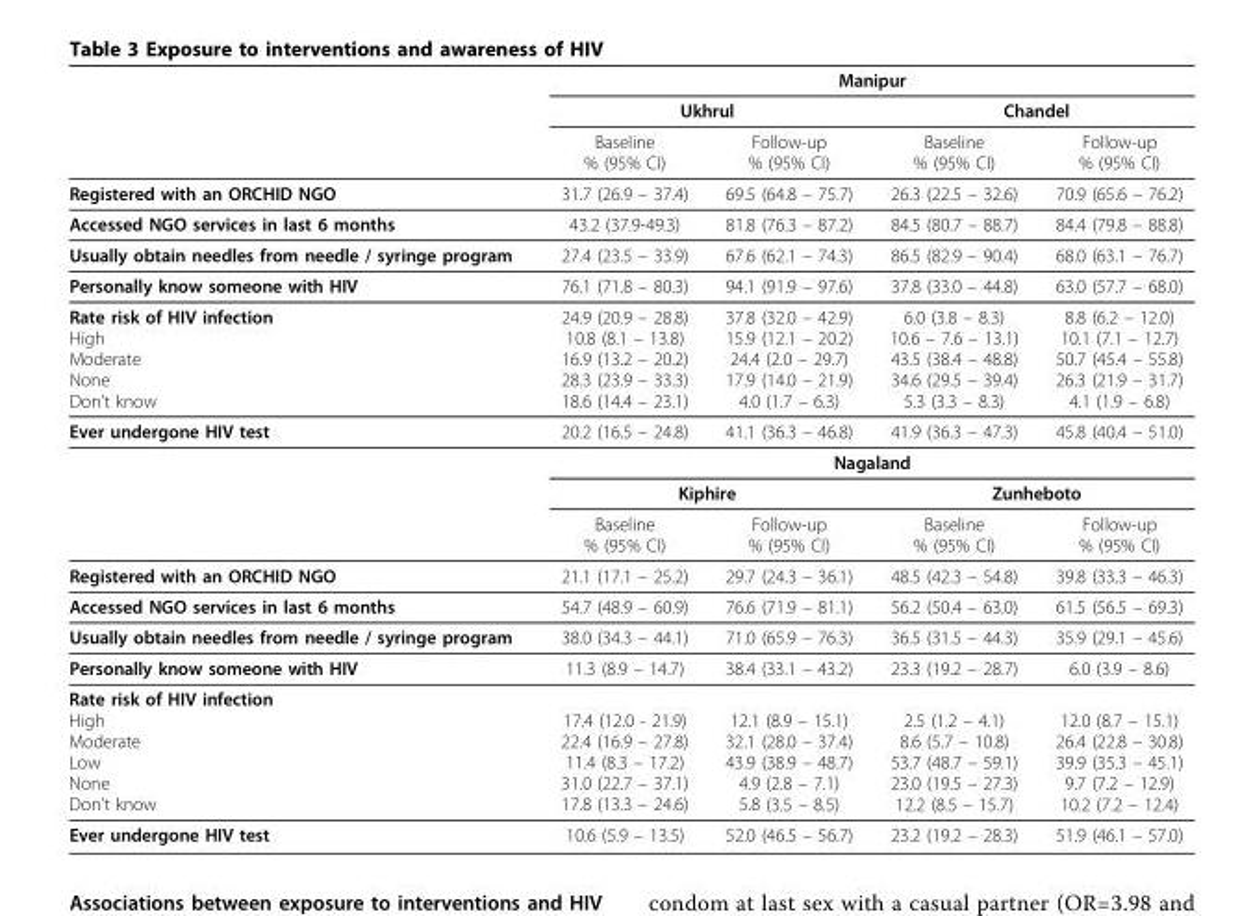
<table><thead><tr><td rowspan="3"></td><td colspan="4">Manipur</td></tr><tr><td colspan="2">Ukhrul</td><td colspan="2">Chandel</td></tr><tr><td>Baseline % (95% CI)</td><td>Follow-up % (95% CI)</td><td>Baseline % (95% CI)</td><td>Follow-up % (95% CI)</td></tr></thead><tbody><tr><td>Registered with an ORCHID NGO</td><td>31.7 (26.9 – 37.4)</td><td>69.5 (64.8 – 75.7)</td><td>26.3 (22.5 – 32.6)</td><td>70.9 (65.6 – 76.2)</td></tr><tr><td>Accessed NGO services in last 6 months</td><td>43.2 (37.9-49.3)</td><td>81.8 (76.3 – 87.2)</td><td>84.5 (80.7 – 88.7)</td><td>84.4 (79.8 – 88.8)</td></tr><tr><td>Usually obtain needles from needle / syringe program</td><td>27.4 (23.5 – 33.9)</td><td>67.6 (62.1 – 74.3)</td><td>86.5 (82.9 – 90.4)</td><td>68.0 (63.1 – 76.7)</td></tr><tr><td>Personally know someone with HIV</td><td>76.1 (71.8 – 80.3)</td><td>94.1 (91.9 – 97.6)</td><td>37.8 (33.0 – 44.8)</td><td>63.0 (57.7 – 68.0)</td></tr><tr><td>Rate risk of HIV infection High Moderate None Don’t know</td><td>24.9 (20.9 – 28.8) 10.8 (8.1 – 13.8) 16.9 (13.2 – 20.2) 28.3 (23.9 – 33.3) 18.6 (14.4 – 23.1)</td><td>37.8 (32.0 – 42.9) 15.9 (12.1 – 20.2) 24.4 (2.0 – 29.7) 17.9 (14.0 – 21.9) 4.0 (1.7 – 6.3)</td><td>6.0 (3.8 – 8.3) 10.6 – 7.6 – 13.1) 43.5 (38.4 – 48.8) 34.6 (29.5 – 39.4) 5.3 (3.3 – 8.3)</td><td>8.8 (6.2 – 12.0) 10.1 (7.1 – 12.7) 50.7 (45.4 – 55.8) 26.3 (21.9 – 31.7) 4.1 (1.9 – 6.8)</td></tr><tr><td rowspan="4">Ever undergone HIV test</td><td>20.2 (16.5 – 24.8)</td><td>41.1 (36.3 – 46.8)</td><td>41.9 (36.3 – 47.3)</td><td>45.8 (40.4 – 51.0)</td></tr><tr><td colspan="4">Nagaland</td></tr><tr><td colspan="2">Kiphire</td><td colspan="2">Zunheboto</td></tr><tr><td>Baseline % (95% CI)</td><td>Follow-up % (95% CI)</td><td>Baseline % (95% CI)</td><td>Follow-up % (95% CI)</td></tr><tr><td>Registered with an ORCHID NGO</td><td>21.1 (17.1 – 25.2)</td><td>29.7 (24.3 – 36.1)</td><td>48.5 (42.3 – 54.8)</td><td>39.8 (33.3 – 46.3)</td></tr><tr><td>Accessed NGO services in last 6 months</td><td>54.7 (48.9 – 60.9)</td><td>76.6 (71.9 – 81.1)</td><td>56.2 (50.4 – 63.0)</td><td>61.5 (56.5 – 69.3)</td></tr><tr><td>Usually obtain needles from needle / syringe program</td><td>38.0 (34.3 – 44.1)</td><td>71.0 (65.9 – 76.3)</td><td>36.5 (31.5 – 44.3)</td><td>35.9 (29.1 – 45.6)</td></tr><tr><td>Personally know someone with HIV</td><td>11.3 (8.9 – 14.7)</td><td>38.4 (33.1 – 43.2)</td><td>23.3 (19.2 – 28.7)</td><td>6.0 (3.9 – 8.6)</td></tr><tr><td>Rate risk of HIV infection High Moderate Low None Don’t know</td><td>17.4 (12.0 - 21.9) 22.4 (16.9 – 27.8) 11.4 (8.3 – 17.2) 31.0 (22.7 – 37.1) 17.8 (13.3 – 24.6)</td><td>12.1 (8.9 – 15.1) 32.1 (28.0 – 37.4) 43.9 (38.9 – 48.7) 4.9 (2.8 – 7.1) 5.8 (3.5 – 8.5)</td><td>2.5 (1.2 – 4.1) 8.6 (5.7 – 10.8) 53.7 (48.7 – 59.1) 23.0 (19.5 – 27.3) 12.2 (8.5 – 15.7)</td><td>12.0 (8.7 – 15.1) 26.4 (22.8 – 30.8) 39.9 (35.3 – 45.1) 9.7 (7.2 – 12.9) 10.2 (7.2 – 12.4)</td></tr><tr><td>Ever undergone HIV test</td><td>10.6 (5.9 – 13.5)</td><td>52.0 (46.5 – 56.7)</td><td>23.2 (19.2 – 28.3)</td><td>51.9 (46.1 – 57.0)</td></tr></tbody></table>